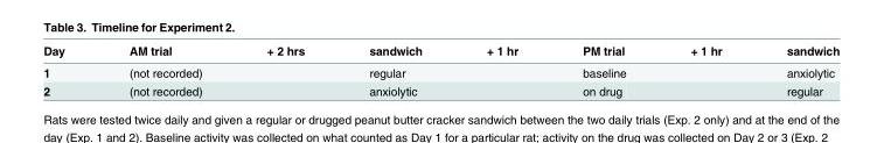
<table><thead><tr><td>Day</td><td>AM trial</td><td>+ 2 hrs</td><td>sandwich</td><td>+ 1 hr</td><td>PM trial</td><td>+ 1 hr</td><td>sandwich</td></tr></thead><tbody><tr><td>1</td><td>(not recorded)</td><td></td><td>regular</td><td></td><td>baseline</td><td></td><td>anxiolytic</td></tr><tr><td>2</td><td>(not recorded)</td><td></td><td>anxiolytic</td><td></td><td>on drug</td><td></td><td>regular</td></tr></tbody></table>